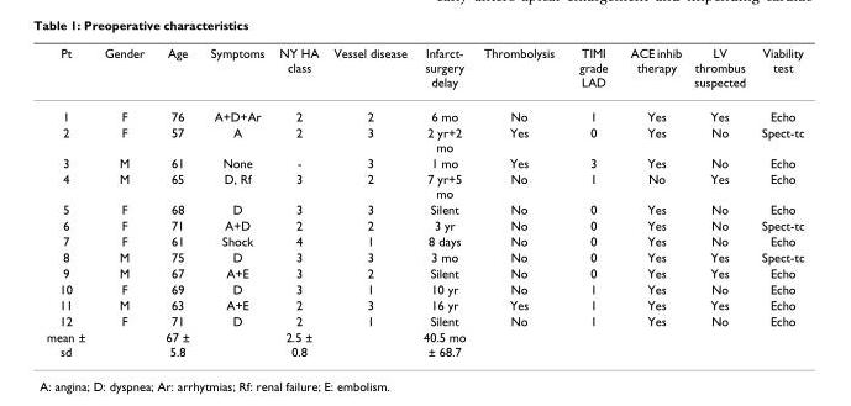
<table><thead><tr><td>Pt</td><td>Gender</td><td>Age</td><td>Symptoms</td><td>NY HA class</td><td>Vessel disease</td><td>Infarct- surgery delay</td><td>Thrombolysis</td><td>TIMI grade LAD</td><td>ACE inhib therapy</td><td>LV thrombus suspected</td><td>Viability test</td></tr></thead><tbody><tr><td>1</td><td>F</td><td>76</td><td>A+D+Ar</td><td>2</td><td>2</td><td>6 mo</td><td>No</td><td>1</td><td>Yes</td><td>Yes</td><td>Echo</td></tr><tr><td>2</td><td>F</td><td>57</td><td>A</td><td>2</td><td>3</td><td>2 yr+2 mo</td><td>Yes</td><td>0</td><td>Yes</td><td>No</td><td>Spect-tc</td></tr><tr><td>3</td><td>M</td><td>61</td><td>None</td><td>-</td><td>3</td><td>1 mo</td><td>Yes</td><td>3</td><td>Yes</td><td>No</td><td>Echo</td></tr><tr><td>4</td><td>M</td><td>65</td><td>D, Rf</td><td>3</td><td>2</td><td>7 yr+5 mo</td><td>No</td><td>1</td><td>No</td><td>Yes</td><td>Echo</td></tr><tr><td>5</td><td>F</td><td>68</td><td>D</td><td>3</td><td>3</td><td>Silent</td><td>No</td><td>0</td><td>Yes</td><td>No</td><td>Echo</td></tr><tr><td>6</td><td>F</td><td>71</td><td>A+D</td><td>2</td><td>2</td><td>3 yr</td><td>No</td><td>0</td><td>Yes</td><td>No</td><td>Spect-tc</td></tr><tr><td>7</td><td>F</td><td>61</td><td>Shock</td><td>4</td><td>1</td><td>8 days</td><td>No</td><td>0</td><td>Yes</td><td>No</td><td>Echo</td></tr><tr><td>8</td><td>M</td><td>75</td><td>D</td><td>3</td><td>3</td><td>3 mo</td><td>No</td><td>0</td><td>Yes</td><td>Yes</td><td>Spect-tc</td></tr><tr><td>9</td><td>M</td><td>67</td><td>A+E</td><td>3</td><td>2</td><td>Silent</td><td>No</td><td>0</td><td>Yes</td><td>Yes</td><td>Echo</td></tr><tr><td>10</td><td>F</td><td>69</td><td>D</td><td>3</td><td>1</td><td>10 yr</td><td>No</td><td>1</td><td>Yes</td><td>No</td><td>Echo</td></tr><tr><td>11</td><td>M</td><td>63</td><td>A+E</td><td>2</td><td>3</td><td>16 yr</td><td>Yes</td><td>1</td><td>Yes</td><td>Yes</td><td>Echo</td></tr><tr><td>12</td><td>F</td><td>71</td><td>D</td><td>2</td><td>1</td><td>Silent</td><td>No</td><td>1</td><td>Yes</td><td>No</td><td>Echo</td></tr><tr><td>mean ± sd</td><td></td><td>67 ± 5.8</td><td></td><td>2.5 ± 0.8</td><td></td><td>40.5 mo ± 68.7</td><td></td><td></td><td></td><td></td><td></td></tr></tbody></table>